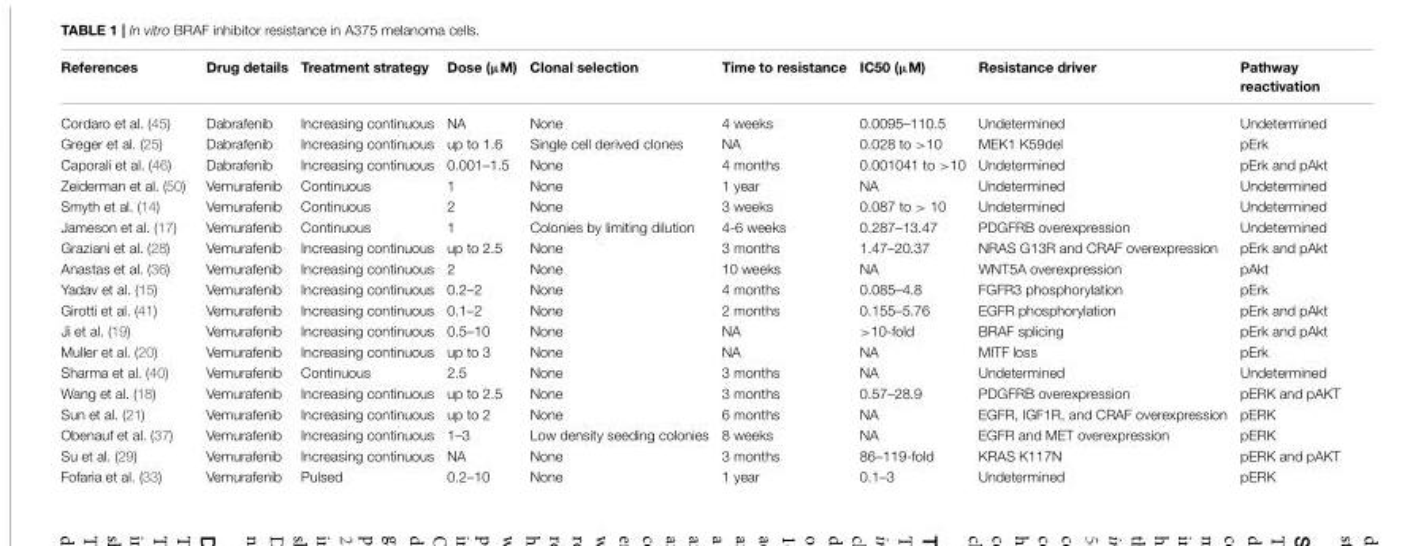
<table><thead><tr><td>References</td><td>Drug details</td><td>Treatment strategy</td><td>Dose (µM)</td><td>Clonal selection</td><td>Time to resistance</td><td>IC50 (µM)</td><td>Resistance driver</td><td>Pathway reactivation</td></tr></thead><tbody><tr><td>Cordaro et al. (45)</td><td>Dabrafenib</td><td>Increasing continuous</td><td>NA</td><td>None</td><td>4 weeks</td><td>0.0095–110.5</td><td>Undetermined</td><td>Undetermined</td></tr><tr><td>Greger et al. (25)</td><td>Dabrafenib</td><td>Increasing continuous</td><td>up to 1.6</td><td>Single cell derived clones</td><td>NA</td><td>0.028 to &gt;10</td><td>MEK1 K59del</td><td>pErk</td></tr><tr><td>Caporali et al. (46)</td><td>Dabrafenib</td><td>Increasing continuous</td><td>0.001–1.5</td><td>None</td><td>4 months</td><td>0.001041 to &gt;10</td><td>Undetermined</td><td>pErk and pAkt</td></tr><tr><td>Zeiderman et al. (50)</td><td>Vemurafenib</td><td>Continuous</td><td>1</td><td>None</td><td>1 year</td><td>NA</td><td>Undetermined</td><td>Undetermined</td></tr><tr><td>Smyth et al. (14)</td><td>Vemurafenib</td><td>Continuous</td><td>2</td><td>None</td><td>3 weeks</td><td>0.087 to &gt; 10</td><td>Undetermined</td><td>Undetermined</td></tr><tr><td>Jameson et al. (17)</td><td>Vemurafenib</td><td>Continuous</td><td>1</td><td>Colonies by limiting dilution</td><td>4-6 weeks</td><td>0.287–13.47</td><td>PDGFRB overexpression</td><td>Undetermined</td></tr><tr><td>Graziani et al. (28)</td><td>Vemurafenib</td><td>Increasing continuous</td><td>up to 2.5</td><td>None</td><td>3 months</td><td>1.47–20.37</td><td>NRAS G13R and CRAF overexpression</td><td>pErk and pAkt</td></tr><tr><td>Anastas et al. (36)</td><td>Vemurafenib</td><td>Increasing continuous</td><td>2</td><td>None</td><td>10 weeks</td><td>NA</td><td>WNT5A overexpression</td><td>pAkt</td></tr><tr><td>Yadav et al. (15)</td><td>Vemurafenib</td><td>Increasing continuous</td><td>0.2–2</td><td>None</td><td>4 months</td><td>0.085–4.8</td><td>FGFR3 phosphorylation</td><td>pErk</td></tr><tr><td>Girotti et al. (41)</td><td>Vemurafenib</td><td>Increasing continuous</td><td>0.1–2</td><td>None</td><td>2 months</td><td>0.155–5.76</td><td>EGFR phosphorylation</td><td>pErk and pAkt</td></tr><tr><td>Ji et al. (19)</td><td>Vemurafenib</td><td>Increasing continuous</td><td>0.5–10</td><td>None</td><td>NA</td><td>&gt;10-fold</td><td>BRAF splicing</td><td>pErk and pAkt</td></tr><tr><td>Muller et al. (20)</td><td>Vemurafenib</td><td>Increasing continuous</td><td>up to 3</td><td>None</td><td>NA</td><td>NA</td><td>MITF loss</td><td>pErk</td></tr><tr><td>Sharma et al. (40)</td><td>Vemurafenib</td><td>Continuous</td><td>2.5</td><td>None</td><td>3 months</td><td>NA</td><td>Undetermined</td><td>Undetermined</td></tr><tr><td>Wang et al. (18)</td><td>Vemurafenib</td><td>Increasing continuous</td><td>up to 2.5</td><td>None</td><td>3 months</td><td>0.57–28.9</td><td>PDGFRB overexpression</td><td>pERK and pAKT</td></tr><tr><td>Sun et al. (21)</td><td>Vemurafenib</td><td>Increasing continuous</td><td>up to 2</td><td>None</td><td>6 months</td><td>NA</td><td>EGFR, IGF1R, and CRAF overexpression</td><td>pERK</td></tr><tr><td>Obenauf et al. (37)</td><td>Vemurafenib</td><td>Increasing continuous</td><td>1–3</td><td>Low density seeding colonies</td><td>8 weeks</td><td>NA</td><td>EGFR and MET overexpression</td><td>pERK</td></tr><tr><td>Su et al. (29)</td><td>Vemurafenib</td><td>Increasing continuous</td><td>NA</td><td>None</td><td>3 months</td><td>86–119-fold</td><td>KRAS K117N</td><td>pERK and pAKT</td></tr><tr><td>Fofaria et al. (33)</td><td>Vemurafenib</td><td>Pulsed</td><td>0.2–10</td><td>None</td><td>1 year</td><td>0.1–3</td><td>Undetermined</td><td>pERK</td></tr></tbody></table>